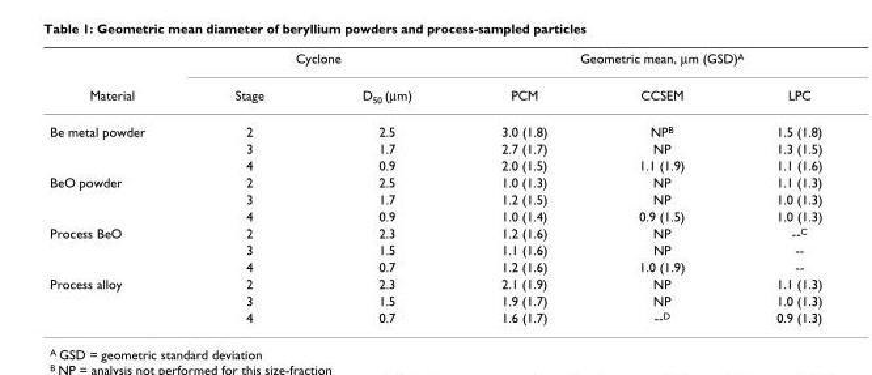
<table><thead><tr><td rowspan="2">Material</td><td colspan="2">Cyclone</td><td colspan="3">Geometric mean, μm (GSD)<sup>A</sup></td></tr><tr><td>Stage</td><td>D<sub>50</sub> (μm)</td><td>PCM</td><td>CCSEM</td><td>LPC</td></tr></thead><tbody><tr><td rowspan="3">Be metal powder</td><td>2</td><td>2.5</td><td>3.0 (1.8)</td><td>NP<sup>B</sup></td><td>1.5 (1.8)</td></tr><tr><td>3</td><td>1.7</td><td>2.7 (1.7)</td><td>NP</td><td>1.3 (1.5)</td></tr><tr><td>4</td><td>0.9</td><td>2.0 (1.5)</td><td>1.1 (1.9)</td><td>1.1 (1.6)</td></tr><tr><td rowspan="3">BeO powder</td><td>2</td><td>2.5</td><td>1.0 (1.3)</td><td>NP</td><td>1.1 (1.3)</td></tr><tr><td>3</td><td>1.7</td><td>1.2 (1.5)</td><td>NP</td><td>1.0 (1.3)</td></tr><tr><td>4</td><td>0.9</td><td>1.0 (1.4)</td><td>0.9 (1.5)</td><td>1.0 (1.3)</td></tr><tr><td rowspan="3">Process BeO</td><td>2</td><td>2.3</td><td>1.2 (1.6)</td><td>NP</td><td>--<sup>C</sup></td></tr><tr><td>3</td><td>1.5</td><td>1.1 (1.6)</td><td>NP</td><td>--</td></tr><tr><td>4</td><td>0.7</td><td>1.2 (1.6)</td><td>1.0 (1.9)</td><td>--</td></tr><tr><td rowspan="3">Process alloy</td><td>2</td><td>2.3</td><td>2.1 (1.9)</td><td>NP</td><td>1.1 (1.3)</td></tr><tr><td>3</td><td>1.5</td><td>1.9 (1.7)</td><td>NP</td><td>1.0 (1.3)</td></tr><tr><td>4</td><td>0.7</td><td>1.6 (1.7)</td><td>--<sup>D</sup></td><td>0.9 (1.3)</td></tr></tbody></table>